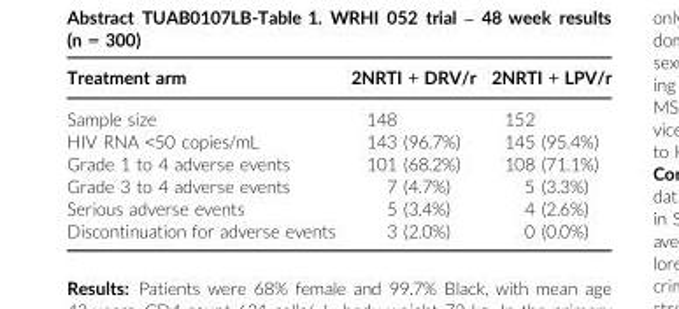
<table><thead><tr><td>Treatment arm</td><td>2NRTI + DRV/r</td><td>2NRTI + LPV/r</td></tr></thead><tbody><tr><td>Sample size</td><td>148</td><td>152</td></tr><tr><td>HIV RNA &lt;50 copies/mL</td><td>143 (96.7%)</td><td>145 (95.4%)</td></tr><tr><td>Grade 1 to 4 adverse events</td><td>101 (68.2%)</td><td>108 (71.1%)</td></tr><tr><td>Grade 3 to 4 adverse events</td><td>7 (4.7%)</td><td>5 (3.3%)</td></tr><tr><td>Serious adverse events</td><td>5 (3.4%)</td><td>4 (2.6%)</td></tr><tr><td>Discontinuation for adverse events</td><td>3 (2.0%)</td><td>0 (0.0%)</td></tr></tbody></table>